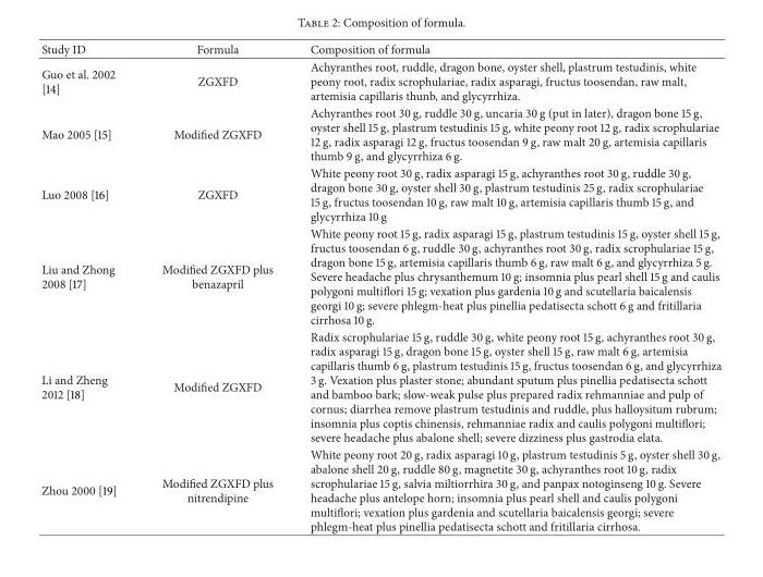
<table><thead><tr><td>Study ID</td><td>Formula</td><td>Composition of formula</td></tr></thead><tbody><tr><td>Guo et al. 2002 [14]</td><td>ZGXFD</td><td>Achyranthes root, ruddle, dragon bone, oyster shell, plastrum testudinis, white peony root, radix scrophulariae, radix asparagi, fructus toosendan, raw malt, artemisia capillaris thunb, and glycyrrhiza.</td></tr><tr><td>Mao 2005 [15]</td><td>Modified ZGXFD</td><td>Achyranthes root 30 g, ruddle 30 g, uncaria 30 g (put in later), dragon bone 15 g, oyster shell 15 g, plastrum testudinis 15 g, white peony root 12 g, radix scrophulariae 12 g, radix asparagi 12 g, fructus toosendan 9 g, raw malt 20 g, artemisia capillaris thumb 9 g, and glycyrrhiza 6 g.</td></tr><tr><td>Luo 2008 [16]</td><td>ZGXFD</td><td>White peony root 30 g, radix asparagi 15 g, achyranthes root 30 g, ruddle 30 g, dragon bone 30 g, oyster shell 30 g, plastrum testudinis 25 g, radix scrophulariae 15 g, fructus toosendan 10 g, raw malt 10 g, artemisia capillaris thumb 15 g, and glycyrrhiza 10 g</td></tr><tr><td>Liu and Zhong 2008 [17]</td><td>Modified ZGXFD plus benazapril</td><td>White peony root 15 g, radix asparagi 15 g, plastrum testudinis 15 g, oyster shell 15 g, fructus toosendan 6 g, ruddle 30 g, achyranthes root 30 g, radix scrophulariae 15 g, dragon bone 15 g, artemisia capillaris thumb 6 g, raw malt 6 g, and glycyrrhiza 5 g. Severe headache plus chrysanthemum 10 g; insomnia plus pearl shell 15 g and caulis polygoni multiflori 15 g; vexation plus gardenia 10 g and scutellaria baicalensis georgi 10 g; severe phlegm-heat plus pinellia pedatisecta schott 6 g and fritillaria cirrhosa 10 g.</td></tr><tr><td>Li and Zheng 2012 [18]</td><td>Modified ZGXFD</td><td>Radix scrophulariae 15 g, ruddle 30 g, white peony root 15 g, achyranthes root 30 g, radix asparagi 15 g, dragon bone 15 g, oyster shell 15 g, raw malt 6 g, artemisia capillaris thumb 6 g, plastrum testudinis 15 g, fructus toosendan 6 g, and glycyrrhiza 3 g. Vexation plus plaster stone; abundant sputum plus pinellia pedatisecta schott and bamboo bark; slow-weak pulse plus prepared radix rehmanniae and pulp of cornus; diarrhea remove plastrum testudinis and ruddle, plus halloysitum rubrum; insomnia plus coptis chinensis, rehmanniae radix and caulis polygoni multiflori; severe headache plus abalone shell; severe dizziness plus gastrodia elata.</td></tr><tr><td>Zhou 2000 [19]</td><td>Modified ZGXFD plus nitrendipine</td><td>White peony root 20 g, radix asparagi 10 g, plastrum testudinis 5 g, oyster shell 30 g, abalone shell 20 g, ruddle 80 g, magnetite 30 g, achyranthes root 10 g, radix scrophulariae 15 g, salvia miltiorrhira 30 g, and panpax notoginseng 10 g. Severe headache plus antelope horn; insomnia plus pearl shell and caulis polygoni multiflori; vexation plus gardenia and scutellaria baicalensis georgi; severe phlegm-heat plus pinellia pedatisecta schott and fritillaria cirrhosa.</td></tr></tbody></table>